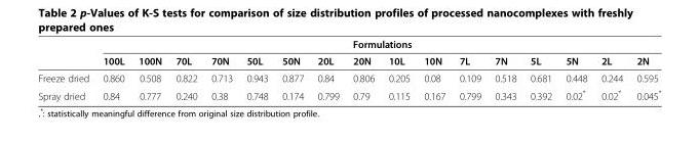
<table><thead><tr><td rowspan="2"></td><td colspan="16">Formulations</td></tr><tr><td>100L</td><td>100N</td><td>70L</td><td>70N</td><td>50L</td><td>50N</td><td>20L</td><td>20N</td><td>10L</td><td>10N</td><td>7L</td><td>7N</td><td>5L</td><td>5N</td><td>2L</td><td>2N</td></tr></thead><tbody><tr><td>Freeze dried</td><td>0.860</td><td>0.508</td><td>0.822</td><td>0.713</td><td>0.943</td><td>0.877</td><td>0.84</td><td>0.806</td><td>0.205</td><td>0.08</td><td>0.109</td><td>0.518</td><td>0.681</td><td>0.448</td><td>0.244</td><td>0.595</td></tr><tr><td>Spray dried</td><td>0.84</td><td>0.777</td><td>0.240</td><td>0.38</td><td>0.748</td><td>0.174</td><td>0.799</td><td>0.79</td><td>0.115</td><td>0.167</td><td>0.799</td><td>0.343</td><td>0.392</td><td>0.02*</td><td>0.02*</td><td>0.045*</td></tr></tbody></table>